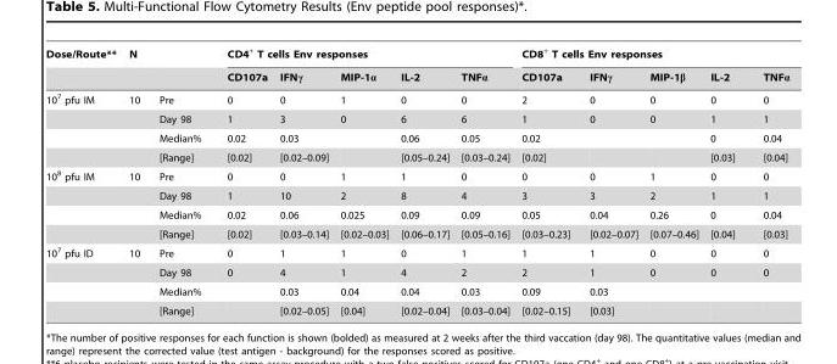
<table><thead><tr><td rowspan="2">Dose/Route**</td><td rowspan="2">N</td><td rowspan="2"></td><td colspan="5">CD4<sup>+</sup> T cells Env responses</td><td colspan="5">CD8<sup>+</sup> T cells Env responses</td></tr><tr><td>CD107a</td><td>IFNγ</td><td>MIP-1α</td><td>IL-2</td><td>TNFα</td><td>CD107a</td><td>IFNγ</td><td>MIP-1β</td><td>IL-2</td><td>TNFα</td></tr></thead><tbody><tr><td rowspan="4">10<sup>7</sup> pfu IM</td><td>10</td><td>Pre</td><td>0</td><td>0</td><td>1</td><td>0</td><td>0</td><td>2</td><td>0</td><td>0</td><td>0</td><td>0</td></tr><tr><td></td><td>Day 98</td><td>1</td><td>3</td><td>0</td><td>6</td><td>6</td><td>1</td><td>0</td><td>0</td><td>1</td><td>1</td></tr><tr><td></td><td>Median%</td><td>0.02</td><td>0.03</td><td></td><td>0.06</td><td>0.05</td><td>0.02</td><td></td><td></td><td>0</td><td>0.04</td></tr><tr><td></td><td>[Range]</td><td>[0.02]</td><td>[0.02–0.09]</td><td></td><td>[0.05–0.24]</td><td>[0.03–0.24]</td><td>[0.02]</td><td></td><td></td><td>[0.03]</td><td>[0.04]</td></tr><tr><td rowspan="4">10<sup>8</sup> pfu IM</td><td>10</td><td>Pre</td><td>0</td><td>0</td><td>1</td><td>1</td><td>0</td><td>0</td><td>0</td><td>1</td><td>0</td><td>0</td></tr><tr><td></td><td>Day 98</td><td>1</td><td>10</td><td>2</td><td>8</td><td>4</td><td>3</td><td>3</td><td>2</td><td>1</td><td>1</td></tr><tr><td></td><td>Median%</td><td>0.02</td><td>0.06</td><td>0.025</td><td>0.09</td><td>0.09</td><td>0.05</td><td>0.04</td><td>0.26</td><td>0</td><td>0.04</td></tr><tr><td></td><td>[Range]</td><td>[0.02]</td><td>[0.03–0.14]</td><td>[0.02–0.03]</td><td>[0.06–0.17]</td><td>[0.05–0.16]</td><td>[0.03–0.23]</td><td>[0.02–0.07]</td><td>[0.07–0.46]</td><td>[0.04]</td><td>[0.03]</td></tr><tr><td rowspan="4">10<sup>7</sup> pfu ID</td><td>10</td><td>Pre</td><td>0</td><td>1</td><td>1</td><td>0</td><td>1</td><td>1</td><td>1</td><td>0</td><td>0</td><td>0</td></tr><tr><td></td><td>Day 98</td><td>0</td><td>4</td><td>1</td><td>4</td><td>2</td><td>2</td><td>1</td><td>0</td><td>0</td><td>0</td></tr><tr><td></td><td>Median%</td><td></td><td>0.03</td><td>0.04</td><td>0.04</td><td>0.03</td><td>0.09</td><td>0.03</td><td></td><td></td><td></td></tr><tr><td></td><td>[Range]</td><td></td><td>[0.02–0.05]</td><td>[0.04]</td><td>[0.02–0.04]</td><td>[0.03–0.04]</td><td>[0.02–0.15]</td><td>[0.03]</td><td></td><td></td><td></td></tr></tbody></table>